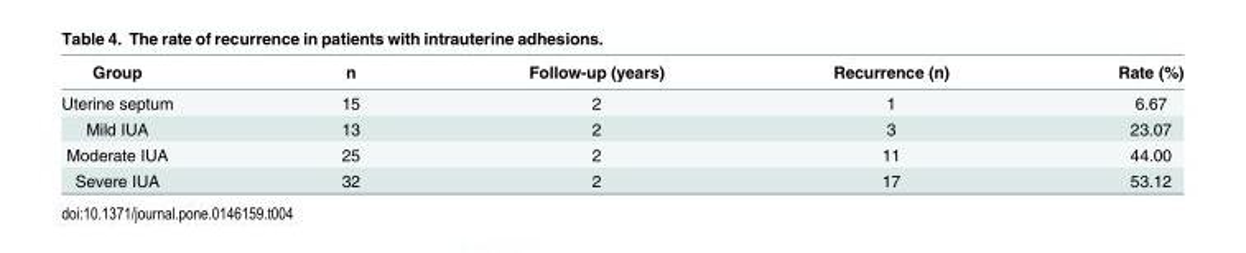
<table><thead><tr><td>Group</td><td>n</td><td>Follow-up (years)</td><td>Recurrence (n)</td><td>Rate (%)</td></tr></thead><tbody><tr><td>Uterine septum</td><td>15</td><td>2</td><td>1</td><td>6.67</td></tr><tr><td>Mild IUA</td><td>13</td><td>2</td><td>3</td><td>23.07</td></tr><tr><td>Moderate IUA</td><td>25</td><td>2</td><td>11</td><td>44.00</td></tr><tr><td>Severe IUA</td><td>32</td><td>2</td><td>17</td><td>53.12</td></tr></tbody></table>